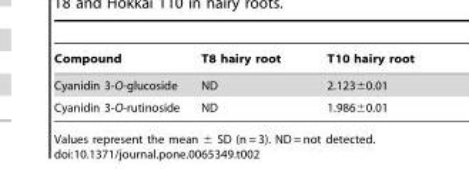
<table><thead><tr><td>Compound</td><td>T8 hairy root</td><td>T10 hairy root</td></tr></thead><tbody><tr><td>Cyanidin 3-O-glucoside</td><td>ND</td><td>2.123±0.01</td></tr><tr><td>Cyanidin 3-O-rutinoside</td><td>ND</td><td>1.986±0.01</td></tr></tbody></table>